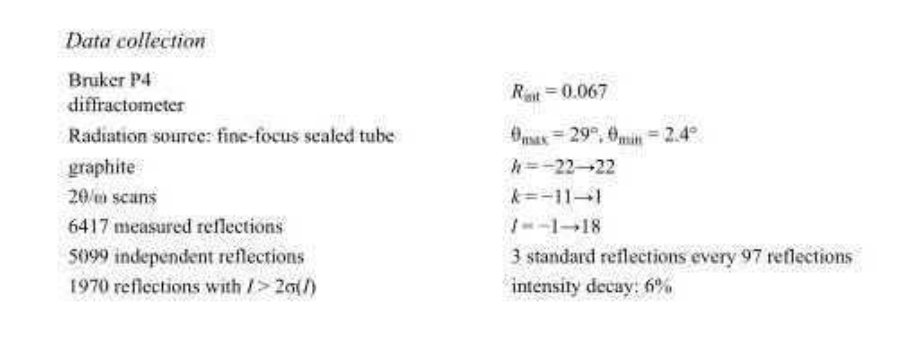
<table><tbody><tr><td>Bruker P4 diffractometer</td><td>R<sub>int</sub> = 0.067</td></tr><tr><td>Radiation source: fine-focus sealed tube</td><td>θ<sub>max</sub> = 29°, θ<sub>min</sub> = 2.4°</td></tr><tr><td>graphite</td><td>h = −22→22</td></tr><tr><td>2θ/ω scans</td><td>k = −11→1</td></tr><tr><td>6417 measured reflections</td><td>l = −1→18</td></tr><tr><td>5099 independent reflections</td><td>3 standard reflections every 97 reflections</td></tr><tr><td>1970 reflections with I &gt; 2σ(I)</td><td>intensity decay: 6%</td></tr></tbody></table>